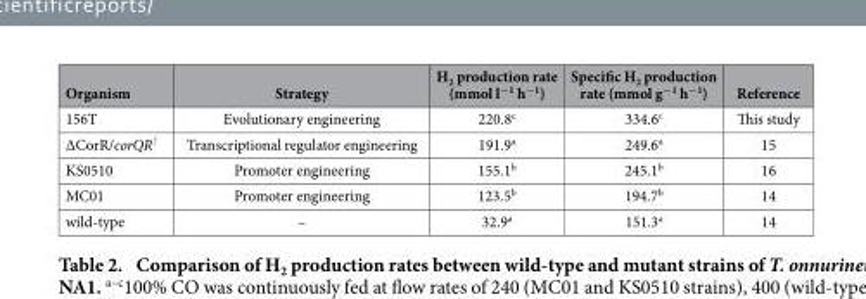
<table><thead><tr><td>Organism</td><td>Strategy</td><td>H<sub>2</sub> production rate (mmol l<sup>−1</sup> h<sup>−1</sup>)</td><td>Specific H<sub>2</sub> production rate (mmol g<sup>−1</sup> h<sup>−1</sup>)</td><td>Reference</td></tr></thead><tbody><tr><td>156T</td><td>Evolutionary engineering</td><td>220.8<sup>c</sup></td><td>334.6<sup>c</sup></td><td>This study</td></tr><tr><td>ΔCorR/corQR<sup>↑</sup></td><td>Transcriptional regulator engineering</td><td>191.9<sup>a</sup></td><td>249.6<sup>a</sup></td><td>15</td></tr><tr><td>KS0510</td><td>Promoter engineering</td><td>155.1<sup>b</sup></td><td>245.1<sup>b</sup></td><td>16</td></tr><tr><td>MC01</td><td>Promoter engineering</td><td>123.5<sup>b</sup></td><td>194.7<sup>b</sup></td><td>14</td></tr><tr><td>wild-type</td><td>–</td><td>32.9<sup>a</sup></td><td>151.3<sup>a</sup></td><td>14</td></tr></tbody></table>